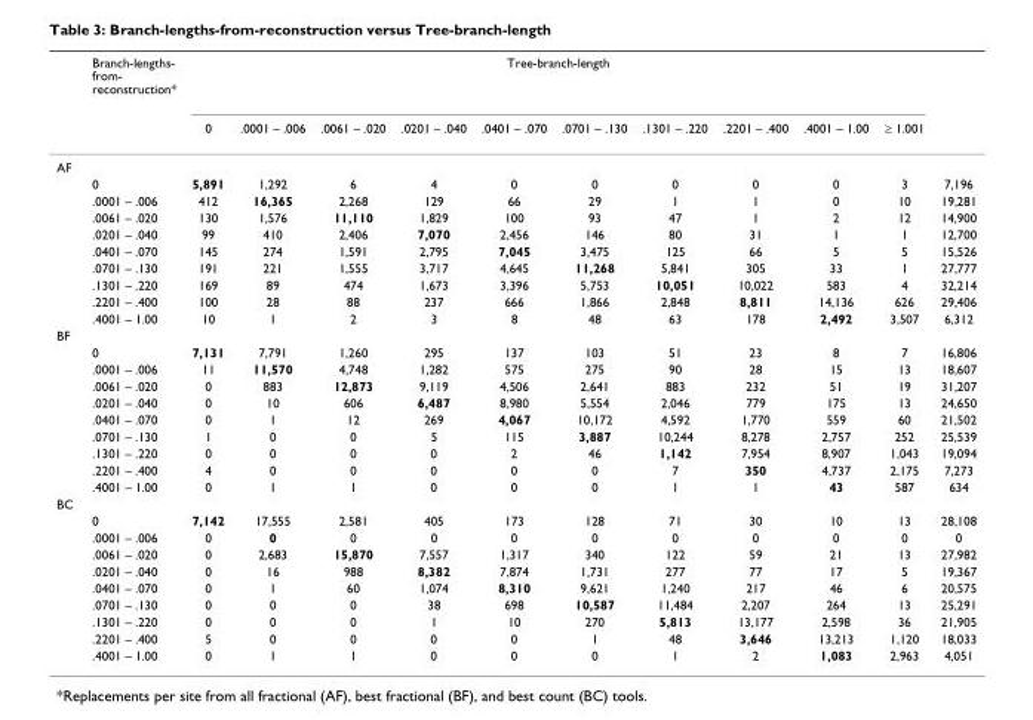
<table><thead><tr><td rowspan="2"></td><td rowspan="2">Branch-lengths- from- reconstruction*</td><td colspan="10">Tree-branch-length</td><td rowspan="2"></td></tr><tr><td>0</td><td>.0001 – .006</td><td>.0061 – .020</td><td>.0201 – .040</td><td>.0401 – .070</td><td>.0701 – .130</td><td>.1301 – .220</td><td>.2201 – .400</td><td>.4001 – 1.00</td><td>≥ 1.001</td></tr></thead><tbody><tr><td colspan="13">AF</td></tr><tr><td></td><td>0</td><td>5,891</td><td>1,292</td><td>6</td><td>4</td><td>0</td><td>0</td><td>0</td><td>0</td><td>0</td><td>3</td><td>7,196</td></tr><tr><td></td><td>.0001 – .006</td><td>412</td><td>16,365</td><td>2,268</td><td>129</td><td>66</td><td>29</td><td>1</td><td>1</td><td>0</td><td>10</td><td>19,281</td></tr><tr><td></td><td>.0061 – .020</td><td>130</td><td>1,576</td><td>11,110</td><td>1,829</td><td>100</td><td>93</td><td>47</td><td>1</td><td>2</td><td>12</td><td>14,900</td></tr><tr><td></td><td>.0201 – .040</td><td>99</td><td>410</td><td>2,406</td><td>7,070</td><td>2,456</td><td>146</td><td>80</td><td>31</td><td>1</td><td>1</td><td>12,700</td></tr><tr><td></td><td>.0401 – .070</td><td>145</td><td>274</td><td>1,591</td><td>2,795</td><td>7,045</td><td>3,475</td><td>125</td><td>66</td><td>5</td><td>5</td><td>15,526</td></tr><tr><td></td><td>.0701 – .130</td><td>191</td><td>221</td><td>1,555</td><td>3,717</td><td>4,645</td><td>11,268</td><td>5,841</td><td>305</td><td>33</td><td>1</td><td>27,777</td></tr><tr><td></td><td>.1301 – .220</td><td>169</td><td>89</td><td>474</td><td>1,673</td><td>3,396</td><td>5,753</td><td>10,051</td><td>10,022</td><td>583</td><td>4</td><td>32,214</td></tr><tr><td></td><td>.2201 – .400</td><td>100</td><td>28</td><td>88</td><td>237</td><td>666</td><td>1,866</td><td>2,848</td><td>8,811</td><td>14,136</td><td>626</td><td>29,406</td></tr><tr><td></td><td>.4001 – 1.00</td><td>10</td><td>1</td><td>2</td><td>3</td><td>8</td><td>48</td><td>63</td><td>178</td><td>2,492</td><td>3,507</td><td>6,312</td></tr><tr><td colspan="13">BF</td></tr><tr><td></td><td>0</td><td>7,131</td><td>7,791</td><td>1,260</td><td>295</td><td>137</td><td>103</td><td>51</td><td>23</td><td>8</td><td>7</td><td>16,806</td></tr><tr><td></td><td>.0001 – .006</td><td>11</td><td>11,570</td><td>4,748</td><td>1,282</td><td>575</td><td>275</td><td>90</td><td>28</td><td>15</td><td>13</td><td>18,607</td></tr><tr><td></td><td>.0061 – .020</td><td>0</td><td>883</td><td>12,873</td><td>9,119</td><td>4,506</td><td>2,641</td><td>883</td><td>232</td><td>51</td><td>19</td><td>31,207</td></tr><tr><td></td><td>.0201 – .040</td><td>0</td><td>10</td><td>606</td><td>6,487</td><td>8,980</td><td>5,554</td><td>2,046</td><td>779</td><td>175</td><td>13</td><td>24,650</td></tr><tr><td></td><td>.0401 – .070</td><td>0</td><td>1</td><td>12</td><td>269</td><td>4,067</td><td>10,172</td><td>4,592</td><td>1,770</td><td>559</td><td>60</td><td>21,502</td></tr><tr><td></td><td>.0701 – .130</td><td>1</td><td>0</td><td>0</td><td>5</td><td>115</td><td>3,887</td><td>10,244</td><td>8,278</td><td>2,757</td><td>252</td><td>25,539</td></tr><tr><td></td><td>.1301 – .220</td><td>0</td><td>0</td><td>0</td><td>0</td><td>2</td><td>46</td><td>1,142</td><td>7,954</td><td>8,907</td><td>1,043</td><td>19,094</td></tr><tr><td></td><td>.2201 – .400</td><td>4</td><td>0</td><td>0</td><td>0</td><td>0</td><td>0</td><td>7</td><td>350</td><td>4,737</td><td>2,175</td><td>7,273</td></tr><tr><td></td><td>.4001 – 1.00</td><td>0</td><td>1</td><td>1</td><td>0</td><td>0</td><td>0</td><td>1</td><td>1</td><td>43</td><td>587</td><td>634</td></tr><tr><td colspan="13">BC</td></tr><tr><td></td><td>0</td><td>7,142</td><td>17,555</td><td>2,581</td><td>405</td><td>173</td><td>128</td><td>71</td><td>30</td><td>10</td><td>13</td><td>28,108</td></tr><tr><td></td><td>.0001 – .006</td><td>0</td><td>0</td><td>0</td><td>0</td><td>0</td><td>0</td><td>0</td><td>0</td><td>0</td><td>0</td><td>0</td></tr><tr><td></td><td>.0061 – .020</td><td>0</td><td>2,683</td><td>15,870</td><td>7,557</td><td>1,317</td><td>340</td><td>122</td><td>59</td><td>21</td><td>13</td><td>27,982</td></tr><tr><td></td><td>.0201 – .040</td><td>0</td><td>16</td><td>988</td><td>8,382</td><td>7,874</td><td>1,731</td><td>277</td><td>77</td><td>17</td><td>5</td><td>19,367</td></tr><tr><td></td><td>.0401 – .070</td><td>0</td><td>1</td><td>60</td><td>1,074</td><td>8,310</td><td>9,621</td><td>1,240</td><td>217</td><td>46</td><td>6</td><td>20,575</td></tr><tr><td></td><td>.0701 – .130</td><td>0</td><td>0</td><td>0</td><td>38</td><td>698</td><td>10,587</td><td>11,484</td><td>2,207</td><td>264</td><td>13</td><td>25,291</td></tr><tr><td></td><td>.1301 – .220</td><td>0</td><td>0</td><td>0</td><td>1</td><td>10</td><td>270</td><td>5,813</td><td>13,177</td><td>2,598</td><td>36</td><td>21,905</td></tr><tr><td></td><td>.2201 – .400</td><td>5</td><td>0</td><td>0</td><td>0</td><td>0</td><td>1</td><td>48</td><td>3,646</td><td>13,213</td><td>1,120</td><td>18,033</td></tr><tr><td></td><td>.4001 – 1.00</td><td>0</td><td>1</td><td>1</td><td>0</td><td>0</td><td>0</td><td>1</td><td>2</td><td>1,083</td><td>2,963</td><td>4,051</td></tr></tbody></table>